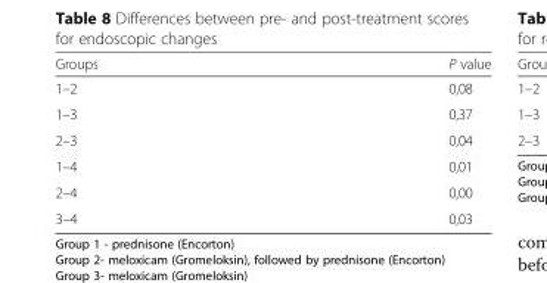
<table><thead><tr><td>Groups</td><td>P value</td></tr></thead><tbody><tr><td>1–2</td><td>0,08</td></tr><tr><td>1–3</td><td>0,37</td></tr><tr><td>2–3</td><td>0,04</td></tr><tr><td>1–4</td><td>0,01</td></tr><tr><td>2–4</td><td>0,00</td></tr><tr><td>3–4</td><td>0,03</td></tr></tbody></table>